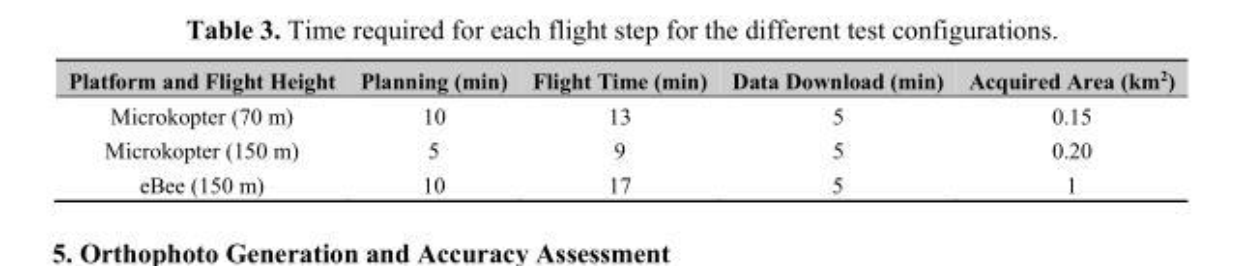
<table><thead><tr><td>Platform and Flight Height</td><td>Planning (min)</td><td>Flight Time (min)</td><td>Data Download (min)</td><td>Acquired Area (km<sup>2</sup>)</td></tr></thead><tbody><tr><td>Microkopter (70 m)</td><td>10</td><td>13</td><td>5</td><td>0.15</td></tr><tr><td>Microkopter (150 m)</td><td>5</td><td>9</td><td>5</td><td>0.20</td></tr><tr><td>eBee (150 m)</td><td>10</td><td>17</td><td>5</td><td>1</td></tr></tbody></table>